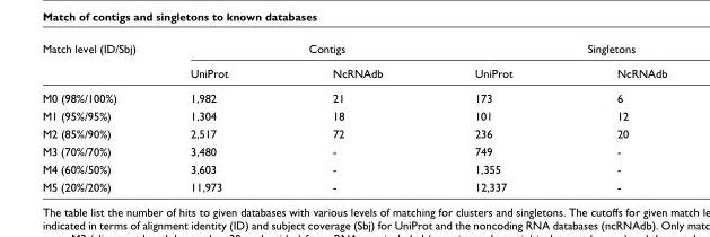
<table><thead><tr><td rowspan="2">Match level (ID/Sbj)</td><td colspan="2">Contigs</td><td colspan="2">Singletons</td></tr><tr><td>UniProt</td><td>NcRNAdb</td><td>UniProt</td><td>NcRNAdb</td></tr></thead><tbody><tr><td>M0 (98%/100%)</td><td>1,982</td><td>21</td><td>173</td><td>6</td></tr><tr><td>M1 (95%/95%)</td><td>1,304</td><td>18</td><td>101</td><td>12</td></tr><tr><td>M2 (85%/90%)</td><td>2,517</td><td>72</td><td>236</td><td>20</td></tr><tr><td>M3 (70%/70%)</td><td>3,480</td><td>-</td><td>749</td><td>-</td></tr><tr><td>M4 (60%/50%)</td><td>3,603</td><td>-</td><td>1,355</td><td>-</td></tr><tr><td>M5 (20%/20%)</td><td>11,973</td><td>-</td><td>12,337</td><td>-</td></tr></tbody></table>